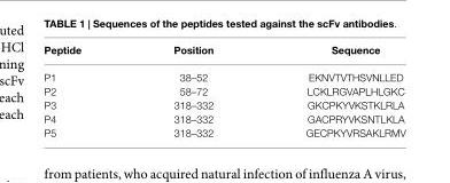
<table><thead><tr><td>Peptide</td><td>Position</td><td>Sequence</td></tr></thead><tbody><tr><td>P1</td><td>38–52</td><td>EKNVTVTHSVNLLED</td></tr><tr><td>P2</td><td>58–72</td><td>LCKLRGVAPLHLGKC</td></tr><tr><td>P3</td><td>318–332</td><td>GKCPKYVKSTKLRLA</td></tr><tr><td>P4</td><td>318–332</td><td>GACPRYVKSNTLKLA</td></tr><tr><td>P5</td><td>318–332</td><td>GECPKYVRSAKLRMV</td></tr></tbody></table>